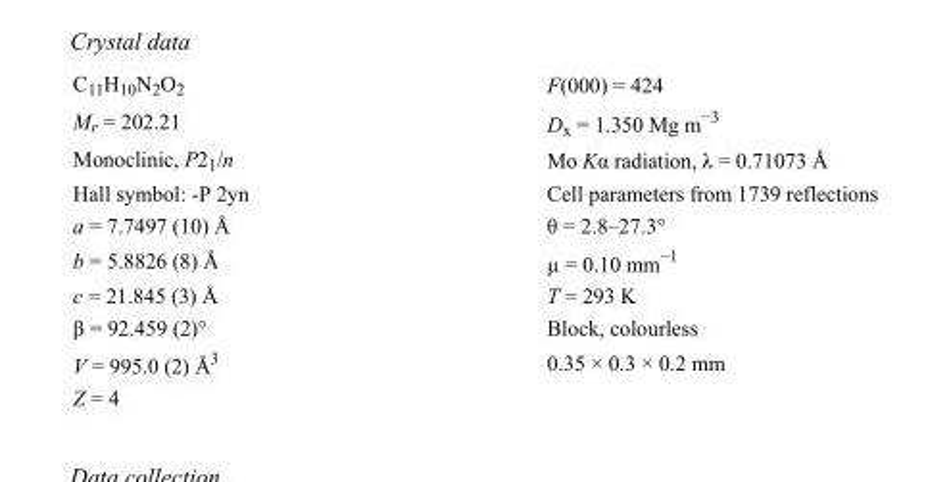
<table><tbody><tr><td>C<sub>11</sub>H<sub>10</sub>N<sub>2</sub>O<sub>2</sub></td><td>F(000) = 424</td></tr><tr><td>M<sub>r</sub> = 202.21</td><td>D<sub>x</sub> = 1.350 Mg m<sup>−3</sup></td></tr><tr><td>Monoclinic, P2<sub>1</sub>/n</td><td>Mo Kα radiation, λ = 0.71073 Å</td></tr><tr><td>Hall symbol: -P 2yn</td><td>Cell parameters from 1739 reflections</td></tr><tr><td>a = 7.7497 (10) Å</td><td>θ = 2.8–27.3°</td></tr><tr><td>b = 5.8826 (8) Å</td><td>µ = 0.10 mm<sup>−1</sup></td></tr><tr><td>c = 21.845 (3) Å</td><td>T = 293 K</td></tr><tr><td>β = 92.459 (2)°</td><td>Block, colourless</td></tr><tr><td>V = 995.0 (2) Å<sup>3</sup></td><td>0.35 × 0.3 × 0.2 mm</td></tr><tr><td>Z = 4</td><td></td></tr></tbody></table>